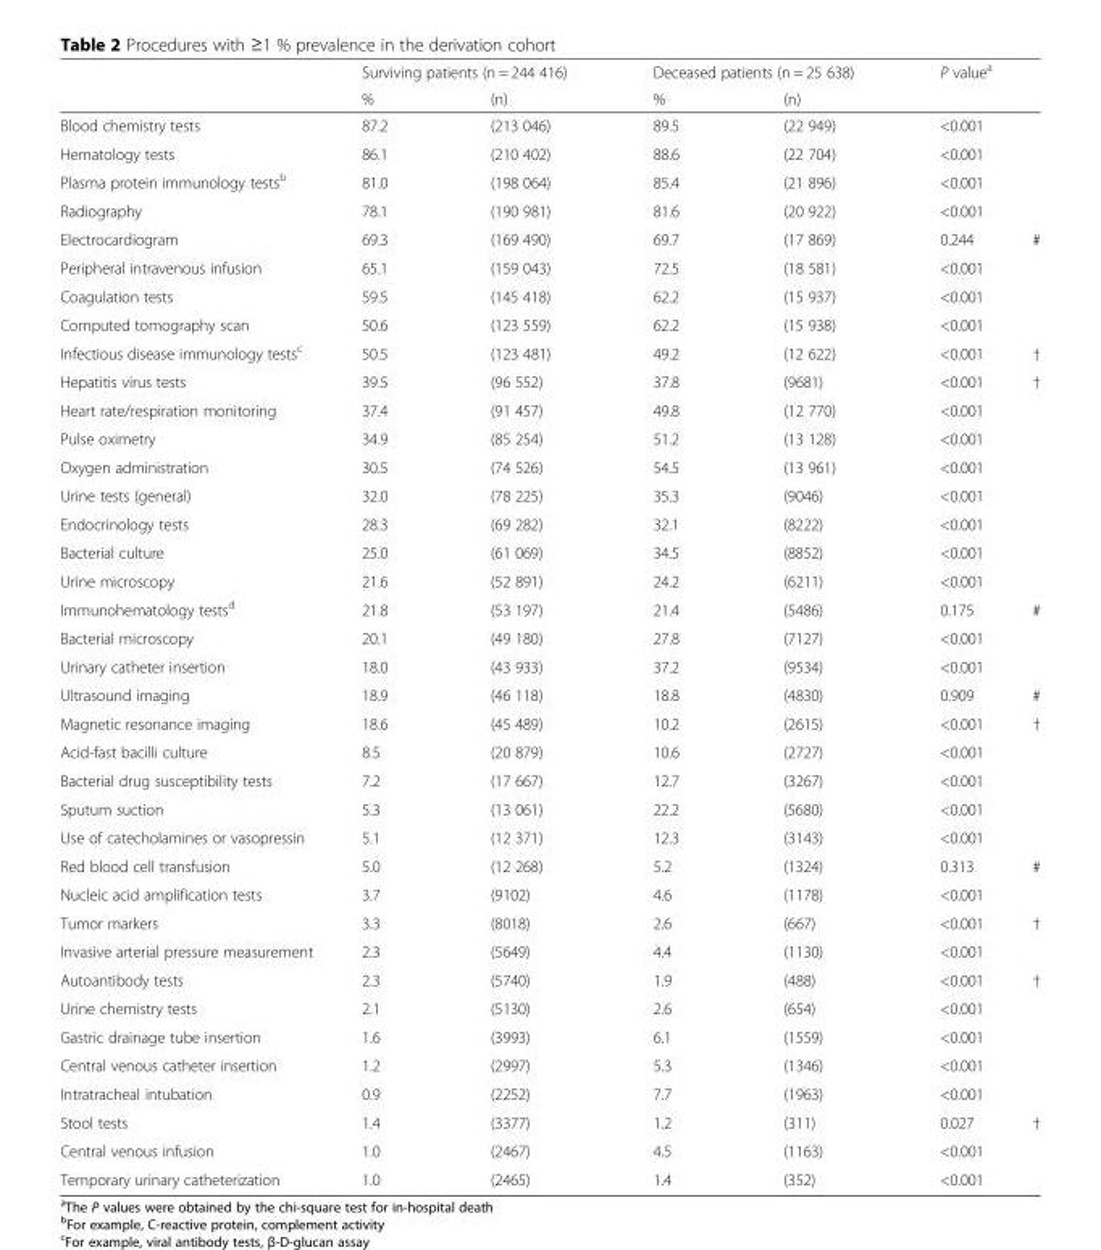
<table><thead><tr><td rowspan="2"></td><td colspan="2">Surviving patients (n = 244 416)</td><td colspan="2">Deceased patients (n = 25 638)</td><td colspan="2">P value<sup>a</sup></td></tr><tr><td>%</td><td>(n)</td><td>%</td><td>(n)</td><td></td><td></td></tr></thead><tbody><tr><td>Blood chemistry tests</td><td>87.2</td><td>(213 046)</td><td>89.5</td><td>(22 949)</td><td>&lt;0.001</td><td></td></tr><tr><td>Hematology tests</td><td>86.1</td><td>(210 402)</td><td>88.6</td><td>(22 704)</td><td>&lt;0.001</td><td></td></tr><tr><td>Plasma protein immunology tests<sup>b</sup></td><td>81.0</td><td>(198 064)</td><td>85.4</td><td>(21 896)</td><td>&lt;0.001</td><td></td></tr><tr><td>Radiography</td><td>78.1</td><td>(190 981)</td><td>81.6</td><td>(20 922)</td><td>&lt;0.001</td><td></td></tr><tr><td>Electrocardiogram</td><td>69.3</td><td>(169 490)</td><td>69.7</td><td>(17 869)</td><td>0.244</td><td>#</td></tr><tr><td>Peripheral intravenous infusion</td><td>65.1</td><td>(159 043)</td><td>72.5</td><td>(18 581)</td><td>&lt;0.001</td><td></td></tr><tr><td>Coagulation tests</td><td>59.5</td><td>(145 418)</td><td>62.2</td><td>(15 937)</td><td>&lt;0.001</td><td></td></tr><tr><td>Computed tomography scan</td><td>50.6</td><td>(123 559)</td><td>62.2</td><td>(15 938)</td><td>&lt;0.001</td><td></td></tr><tr><td>Infectious disease immunology tests<sup>c</sup></td><td>50.5</td><td>(123 481)</td><td>49.2</td><td>(12 622)</td><td>&lt;0.001</td><td>†</td></tr><tr><td>Hepatitis virus tests</td><td>39.5</td><td>(96 552)</td><td>37.8</td><td>(9681)</td><td>&lt;0.001</td><td>†</td></tr><tr><td>Heart rate/respiration monitoring</td><td>37.4</td><td>(91 457)</td><td>49.8</td><td>(12 770)</td><td>&lt;0.001</td><td></td></tr><tr><td>Pulse oximetry</td><td>34.9</td><td>(85 254)</td><td>51.2</td><td>(13 128)</td><td>&lt;0.001</td><td></td></tr><tr><td>Oxygen administration</td><td>30.5</td><td>(74 526)</td><td>54.5</td><td>(13 961)</td><td>&lt;0.001</td><td></td></tr><tr><td>Urine tests (general)</td><td>32.0</td><td>(78 225)</td><td>35.3</td><td>(9046)</td><td>&lt;0.001</td><td></td></tr><tr><td>Endocrinology tests</td><td>28.3</td><td>(69 282)</td><td>32.1</td><td>(8222)</td><td>&lt;0.001</td><td></td></tr><tr><td>Bacterial culture</td><td>25.0</td><td>(61 069)</td><td>34.5</td><td>(8852)</td><td>&lt;0.001</td><td></td></tr><tr><td>Urine microscopy</td><td>21.6</td><td>(52 891)</td><td>24.2</td><td>(6211)</td><td>&lt;0.001</td><td></td></tr><tr><td>Immunohematology tests<sup>d</sup></td><td>21.8</td><td>(53 197)</td><td>21.4</td><td>(5486)</td><td>0.175</td><td>#</td></tr><tr><td>Bacterial microscopy</td><td>20.1</td><td>(49 180)</td><td>27.8</td><td>(7127)</td><td>&lt;0.001</td><td></td></tr><tr><td>Urinary catheter insertion</td><td>18.0</td><td>(43 933)</td><td>37.2</td><td>(9534)</td><td>&lt;0.001</td><td></td></tr><tr><td>Ultrasound imaging</td><td>18.9</td><td>(46 118)</td><td>18.8</td><td>(4830)</td><td>0.909</td><td>#</td></tr><tr><td>Magnetic resonance imaging</td><td>18.6</td><td>(45 489)</td><td>10.2</td><td>(2615)</td><td>&lt;0.001</td><td>†</td></tr><tr><td>Acid-fast bacilli culture</td><td>8.5</td><td>(20 879)</td><td>10.6</td><td>(2727)</td><td>&lt;0.001</td><td></td></tr><tr><td>Bacterial drug susceptibility tests</td><td>7.2</td><td>(17 667)</td><td>12.7</td><td>(3267)</td><td>&lt;0.001</td><td></td></tr><tr><td>Sputum suction</td><td>5.3</td><td>(13 061)</td><td>22.2</td><td>(5680)</td><td>&lt;0.001</td><td></td></tr><tr><td>Use of catecholamines or vasopressin</td><td>5.1</td><td>(12 371)</td><td>12.3</td><td>(3143)</td><td>&lt;0.001</td><td></td></tr><tr><td>Red blood cell transfusion</td><td>5.0</td><td>(12 268)</td><td>5.2</td><td>(1324)</td><td>0.313</td><td>#</td></tr><tr><td>Nucleic acid amplification tests</td><td>3.7</td><td>(9102)</td><td>4.6</td><td>(1178)</td><td>&lt;0.001</td><td></td></tr><tr><td>Tumor markers</td><td>3.3</td><td>(8018)</td><td>2.6</td><td>(667)</td><td>&lt;0.001</td><td>†</td></tr><tr><td>Invasive arterial pressure measurement</td><td>2.3</td><td>(5649)</td><td>4.4</td><td>(1130)</td><td>&lt;0.001</td><td></td></tr><tr><td>Autoantibody tests</td><td>2.3</td><td>(5740)</td><td>1.9</td><td>(488)</td><td>&lt;0.001</td><td>†</td></tr><tr><td>Urine chemistry tests</td><td>2.1</td><td>(5130)</td><td>2.6</td><td>(654)</td><td>&lt;0.001</td><td></td></tr><tr><td>Gastric drainage tube insertion</td><td>1.6</td><td>(3993)</td><td>6.1</td><td>(1559)</td><td>&lt;0.001</td><td></td></tr><tr><td>Central venous catheter insertion</td><td>1.2</td><td>(2997)</td><td>5.3</td><td>(1346)</td><td>&lt;0.001</td><td></td></tr><tr><td>Intratracheal intubation</td><td>0.9</td><td>(2252)</td><td>7.7</td><td>(1963)</td><td>&lt;0.001</td><td></td></tr><tr><td>Stool tests</td><td>1.4</td><td>(3377)</td><td>1.2</td><td>(311)</td><td>0.027</td><td>†</td></tr><tr><td>Central venous infusion</td><td>1.0</td><td>(2467)</td><td>4.5</td><td>(1163)</td><td>&lt;0.001</td><td></td></tr><tr><td>Temporary urinary catheterization</td><td>1.0</td><td>(2465)</td><td>1.4</td><td>(352)</td><td>&lt;0.001</td><td></td></tr></tbody></table>